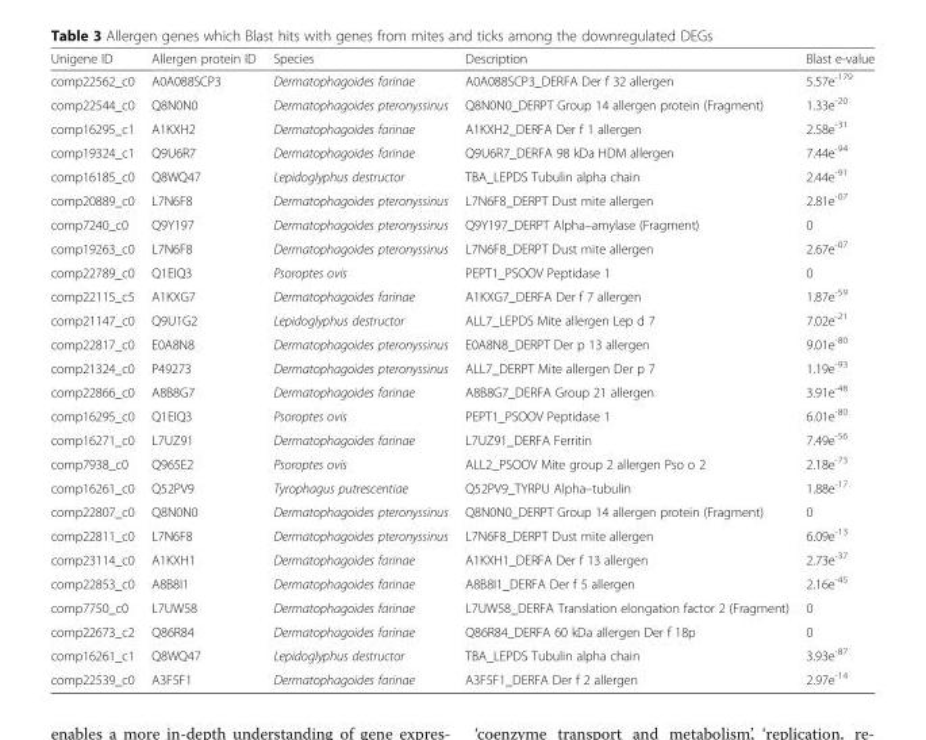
<table><thead><tr><td>Unigene ID</td><td>Allergen protein ID</td><td>Species</td><td>Description</td><td>Blast e-value</td></tr></thead><tbody><tr><td>comp22562_c0</td><td>A0A088SCP3</td><td>Dermatophagoides farinae</td><td>A0A088SCP3_DERFA Der f 32 allergen</td><td>5.57e<sup>-179</sup></td></tr><tr><td>comp22544_c0</td><td>Q8N0N0</td><td>Dermatophagoides pteronyssinus</td><td>Q8N0N0_DERPT Group 14 allergen protein (Fragment)</td><td>1.33e<sup>-20</sup></td></tr><tr><td>comp16295_c1</td><td>A1KXH2</td><td>Dermatophagoides farinae</td><td>A1KXH2_DERFA Der f 1 allergen</td><td>2.58e<sup>-31</sup></td></tr><tr><td>comp19324_c1</td><td>Q9U6R7</td><td>Dermatophagoides farinae</td><td>Q9U6R7_DERFA 98 kDa HDM allergen</td><td>7.44e<sup>-94</sup></td></tr><tr><td>comp16185_c0</td><td>Q8WQ47</td><td>Lepidoglyphus destructor</td><td>TBA_LEPDS Tubulin alpha chain</td><td>2.44e<sup>-91</sup></td></tr><tr><td>comp20889_c0</td><td>L7N6F8</td><td>Dermatophagoides pteronyssinus</td><td>L7N6F8_DERPT Dust mite allergen</td><td>2.81e<sup>-07</sup></td></tr><tr><td>comp7240_c0</td><td>Q9Y197</td><td>Dermatophagoides pteronyssinus</td><td>Q9Y197_DERPT Alpha–amylase (Fragment)</td><td>0</td></tr><tr><td>comp19263_c0</td><td>L7N6F8</td><td>Dermatophagoides pteronyssinus</td><td>L7N6F8_DERPT Dust mite allergen</td><td>2.67e<sup>-07</sup></td></tr><tr><td>comp22789_c0</td><td>Q1EIQ3</td><td>Psoroptes ovis</td><td>PEPT1_PSOOV Peptidase 1</td><td>0</td></tr><tr><td>comp22115_c5</td><td>A1KXG7</td><td>Dermatophagoides farinae</td><td>A1KXG7_DERFA Der f 7 allergen</td><td>1.87e<sup>-59</sup></td></tr><tr><td>comp21147_c0</td><td>Q9U1G2</td><td>Lepidoglyphus destructor</td><td>ALL7_LEPDS Mite allergen Lep d 7</td><td>7.02e<sup>-21</sup></td></tr><tr><td>comp22817_c0</td><td>E0A8N8</td><td>Dermatophagoides pteronyssinus</td><td>E0A8N8_DERPT Der p 13 allergen</td><td>9.01e<sup>-80</sup></td></tr><tr><td>comp21324_c0</td><td>P49273</td><td>Dermatophagoides pteronyssinus</td><td>ALL7_DERPT Mite allergen Der p 7</td><td>1.19e<sup>-93</sup></td></tr><tr><td>comp22866_c0</td><td>A8B8G7</td><td>Dermatophagoides farinae</td><td>A8B8G7_DERFA Group 21 allergen</td><td>3.91e<sup>-48</sup></td></tr><tr><td>comp16295_c0</td><td>Q1EIQ3</td><td>Psoroptes ovis</td><td>PEPT1_PSOOV Peptidase 1</td><td>6.01e<sup>-80</sup></td></tr><tr><td>comp16271_c0</td><td>L7UZ91</td><td>Dermatophagoides farinae</td><td>L7UZ91_DERFA Ferritin</td><td>7.49e<sup>-56</sup></td></tr><tr><td>comp7938_c0</td><td>Q965E2</td><td>Psoroptes ovis</td><td>ALL2_PSOOV Mite group 2 allergen Pso o 2</td><td>2.18e<sup>-73</sup></td></tr><tr><td>comp16261_c0</td><td>Q52PV9</td><td>Tyrophagus putrescentiae</td><td>Q52PV9_TYRPU Alpha–tubulin</td><td>1.88e<sup>-17</sup></td></tr><tr><td>comp22807_c0</td><td>Q8N0N0</td><td>Dermatophagoides pteronyssinus</td><td>Q8N0N0_DERPT Group 14 allergen protein (Fragment)</td><td>0</td></tr><tr><td>comp22811_c0</td><td>L7N6F8</td><td>Dermatophagoides pteronyssinus</td><td>L7N6F8_DERPT Dust mite allergen</td><td>6.09e<sup>-13</sup></td></tr><tr><td>comp23114_c0</td><td>A1KXH1</td><td>Dermatophagoides farinae</td><td>A1KXH1_DERFA Der f 13 allergen</td><td>2.73e<sup>-37</sup></td></tr><tr><td>comp22853_c0</td><td>A8B8I1</td><td>Dermatophagoides farinae</td><td>A8B8I1_DERFA Der f 5 allergen</td><td>2.16e<sup>-45</sup></td></tr><tr><td>comp7750_c0</td><td>L7UW58</td><td>Dermatophagoides farinae</td><td>L7UW58_DERFA Translation elongation factor 2 (Fragment)</td><td>0</td></tr><tr><td>comp22673_c2</td><td>Q86R84</td><td>Dermatophagoides farinae</td><td>Q86R84_DERFA 60 kDa allergen Der f 18p</td><td>0</td></tr><tr><td>comp16261_c1</td><td>Q8WQ47</td><td>Lepidoglyphus destructor</td><td>TBA_LEPDS Tubulin alpha chain</td><td>3.93e<sup>-87</sup></td></tr><tr><td>comp22539_c0</td><td>A3F5F1</td><td>Dermatophagoides farinae</td><td>A3F5F1_DERFA Der f 2 allergen</td><td>2.97e<sup>-14</sup></td></tr></tbody></table>